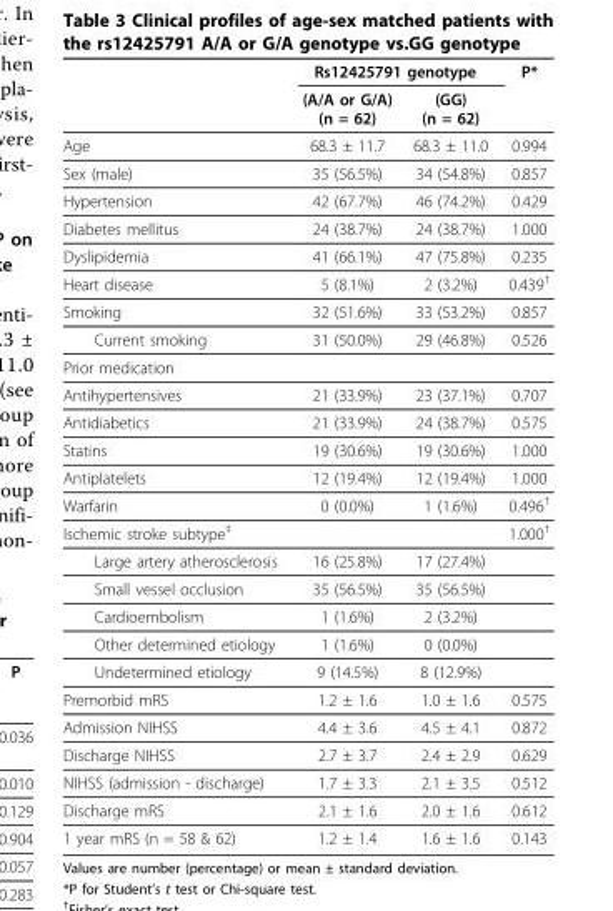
<table><thead><tr><td rowspan="2"></td><td colspan="2">Rs12425791 genotype</td><td rowspan="2">P*</td></tr><tr><td>(A/A or G/A) (n = 62)</td><td>(GG) (n = 62)</td></tr></thead><tbody><tr><td>Age</td><td>68.3 ± 11.7</td><td>68.3 ± 11.0</td><td>0.994</td></tr><tr><td>Sex (male)</td><td>35 (56.5%)</td><td>34 (54.8%)</td><td>0.857</td></tr><tr><td>Hypertension</td><td>42 (67.7%)</td><td>46 (74.2%)</td><td>0.429</td></tr><tr><td>Diabetes mellitus</td><td>24 (38.7%)</td><td>24 (38.7%)</td><td>1.000</td></tr><tr><td>Dyslipidemia</td><td>41 (66.1%)</td><td>47 (75.8%)</td><td>0.235</td></tr><tr><td>Heart disease</td><td>5 (8.1%)</td><td>2 (3.2%)</td><td>0.439<sup>†</sup></td></tr><tr><td>Smoking</td><td>32 (51.6%)</td><td>33 (53.2%)</td><td>0.857</td></tr><tr><td>Current smoking</td><td>31 (50.0%)</td><td>29 (46.8%)</td><td>0.526</td></tr><tr><td colspan="4">Prior medication</td></tr><tr><td>Antihypertensives</td><td>21 (33.9%)</td><td>23 (37.1%)</td><td>0.707</td></tr><tr><td>Antidiabetics</td><td>21 (33.9%)</td><td>24 (38.7%)</td><td>0.575</td></tr><tr><td>Statins</td><td>19 (30.6%)</td><td>19 (30.6%)</td><td>1.000</td></tr><tr><td>Antiplatelets</td><td>12 (19.4%)</td><td>12 (19.4%)</td><td>1.000</td></tr><tr><td>Warfarin</td><td>0 (0.0%)</td><td>1 (1.6%)</td><td>0.496<sup>†</sup></td></tr><tr><td>Ischemic stroke subtype<sup>‡</sup></td><td></td><td></td><td>1.000<sup>†</sup></td></tr><tr><td>Large artery atherosclerosis</td><td>16 (25.8%)</td><td>17 (27.4%)</td><td></td></tr><tr><td>Small vessel occlusion</td><td>35 (56.5%)</td><td>35 (56.5%)</td><td></td></tr><tr><td>Cardioembolism</td><td>1 (1.6%)</td><td>2 (3.2%)</td><td></td></tr><tr><td>Other determined etiology</td><td>1 (1.6%)</td><td>0 (0.0%)</td><td></td></tr><tr><td>Undetermined etiology</td><td>9 (14.5%)</td><td>8 (12.9%)</td><td></td></tr><tr><td>Premorbid mRS</td><td>1.2 ± 1.6</td><td>1.0 ± 1.6</td><td>0.575</td></tr><tr><td>Admission NIHSS</td><td>4.4 ± 3.6</td><td>4.5 ± 4.1</td><td>0.872</td></tr><tr><td>Discharge NIHSS</td><td>2.7 ± 3.7</td><td>2.4 ± 2.9</td><td>0.629</td></tr><tr><td>NIHSS (admission - discharge)</td><td>1.7 ± 3.3</td><td>2.1 ± 3.5</td><td>0.512</td></tr><tr><td>Discharge mRS</td><td>2.1 ± 1.6</td><td>2.0 ± 1.6</td><td>0.612</td></tr><tr><td>1 year mRS (n = 58 &amp; 62)</td><td>1.2 ± 1.4</td><td>1.6 ± 1.6</td><td>0.143</td></tr></tbody></table>